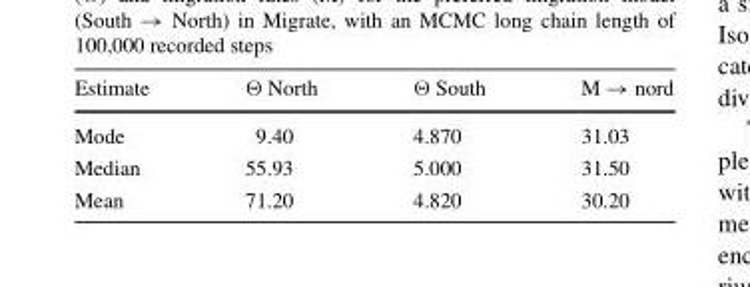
<table><thead><tr><td>Estimate</td><td>Θ North</td><td>Θ South</td><td>M → nord</td></tr></thead><tbody><tr><td>Mode</td><td>9.40</td><td>4.870</td><td>31.03</td></tr><tr><td>Median</td><td>55.93</td><td>5.000</td><td>31.50</td></tr><tr><td>Mean</td><td>71.20</td><td>4.820</td><td>30.20</td></tr></tbody></table>